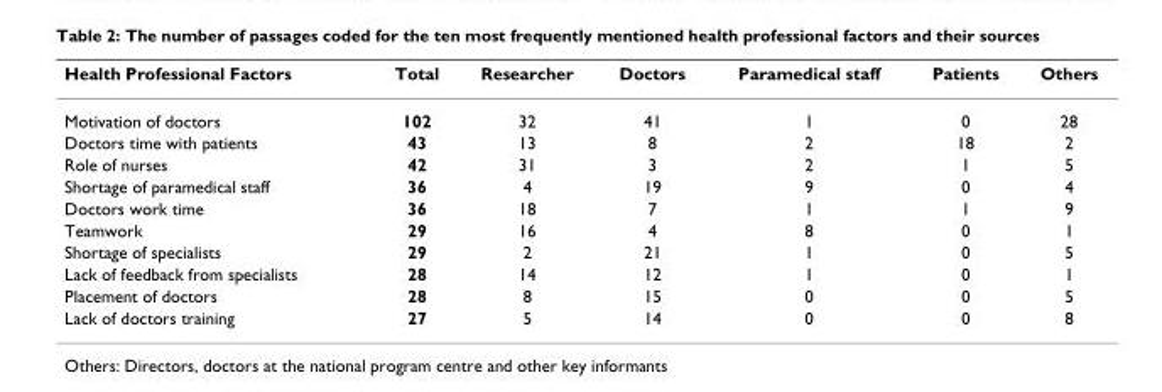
<table><thead><tr><td>Health Professional Factors</td><td>Total</td><td>Researcher</td><td>Doctors</td><td>Paramedical staff</td><td>Patients</td><td>Others</td></tr></thead><tbody><tr><td>Motivation of doctors</td><td>102</td><td>32</td><td>41</td><td>1</td><td>0</td><td>28</td></tr><tr><td>Doctors time with patients</td><td>43</td><td>13</td><td>8</td><td>2</td><td>18</td><td>2</td></tr><tr><td>Role of nurses</td><td>42</td><td>31</td><td>3</td><td>2</td><td>1</td><td>5</td></tr><tr><td>Shortage of paramedical staff</td><td>36</td><td>4</td><td>19</td><td>9</td><td>0</td><td>4</td></tr><tr><td>Doctors work time</td><td>36</td><td>18</td><td>7</td><td>1</td><td>1</td><td>9</td></tr><tr><td>Teamwork</td><td>29</td><td>16</td><td>4</td><td>8</td><td>0</td><td>1</td></tr><tr><td>Shortage of specialists</td><td>29</td><td>2</td><td>21</td><td>1</td><td>0</td><td>5</td></tr><tr><td>Lack of feedback from specialists</td><td>28</td><td>14</td><td>12</td><td>1</td><td>0</td><td>1</td></tr><tr><td>Placement of doctors</td><td>28</td><td>8</td><td>15</td><td>0</td><td>0</td><td>5</td></tr><tr><td>Lack of doctors training</td><td>27</td><td>5</td><td>14</td><td>0</td><td>0</td><td>8</td></tr></tbody></table>